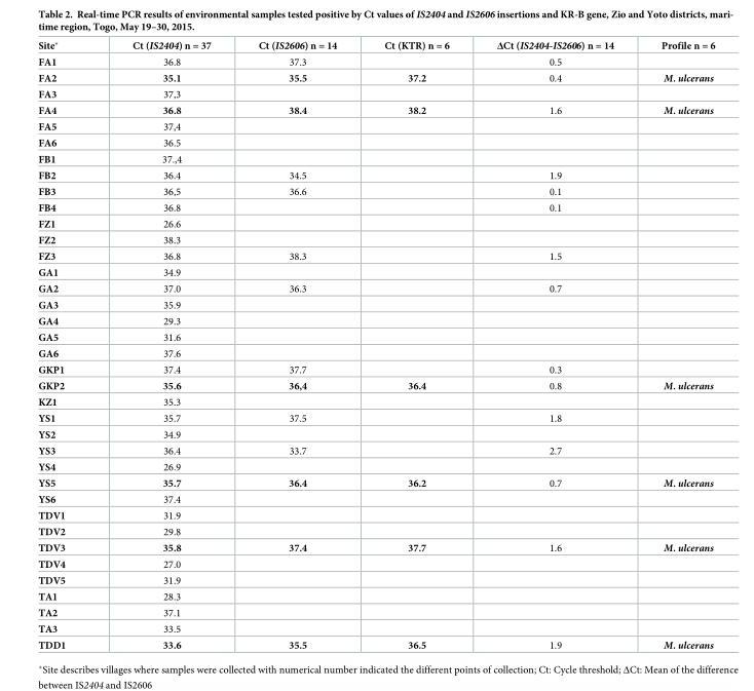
<table><thead><tr><td>Site*</td><td>Ct (IS2404) n = 37</td><td>Ct (IS2606) n = 14</td><td>Ct (KTR) n = 6</td><td>ΔCt (IS2404-IS2606) n = 14</td><td>Profile n = 6</td></tr></thead><tbody><tr><td>FA1</td><td>36.8</td><td>37.3</td><td></td><td>0.5</td><td></td></tr><tr><td>FA2</td><td>35.1</td><td>35.5</td><td>37.2</td><td>0.4</td><td>M. ulcerans</td></tr><tr><td>FA3</td><td>37,3</td><td></td><td></td><td></td><td></td></tr><tr><td>FA4</td><td>36.8</td><td>38.4</td><td>38.2</td><td>1.6</td><td>M. ulcerans</td></tr><tr><td>FA5</td><td>37,4</td><td></td><td></td><td></td><td></td></tr><tr><td>FA6</td><td>36.5</td><td></td><td></td><td></td><td></td></tr><tr><td>FB1</td><td>37.,4</td><td></td><td></td><td></td><td></td></tr><tr><td>FB2</td><td>36.4</td><td>34.5</td><td></td><td>1.9</td><td></td></tr><tr><td>FB3</td><td>36,5</td><td>36.6</td><td></td><td>0.1</td><td></td></tr><tr><td>FB4</td><td>36.8</td><td></td><td></td><td>0.1</td><td></td></tr><tr><td>FZ1</td><td>26.6</td><td></td><td></td><td></td><td></td></tr><tr><td>FZ2</td><td>38.3</td><td></td><td></td><td></td><td></td></tr><tr><td>FZ3</td><td>36.8</td><td>38.3</td><td></td><td>1.5</td><td></td></tr><tr><td>GA1</td><td>34.9</td><td></td><td></td><td></td><td></td></tr><tr><td>GA2</td><td>37.0</td><td>36.3</td><td></td><td>0.7</td><td></td></tr><tr><td>GA3</td><td>35.9</td><td></td><td></td><td></td><td></td></tr><tr><td>GA4</td><td>29.3</td><td></td><td></td><td></td><td></td></tr><tr><td>GA5</td><td>31.6</td><td></td><td></td><td></td><td></td></tr><tr><td>GA6</td><td>37.6</td><td></td><td></td><td></td><td></td></tr><tr><td>GKP1</td><td>37.4</td><td>37.7</td><td></td><td>0.3</td><td></td></tr><tr><td>GKP2</td><td>35.6</td><td>36,4</td><td>36.4</td><td>0.8</td><td>M. ulcerans</td></tr><tr><td>KZ1</td><td>35.3</td><td></td><td></td><td></td><td></td></tr><tr><td>YS1</td><td>35.7</td><td>37.5</td><td></td><td>1.8</td><td></td></tr><tr><td>YS2</td><td>34.9</td><td></td><td></td><td></td><td></td></tr><tr><td>YS3</td><td>36.4</td><td>33.7</td><td></td><td>2.7</td><td></td></tr><tr><td>YS4</td><td>26.9</td><td></td><td></td><td></td><td></td></tr><tr><td>YS5</td><td>35.7</td><td>36.4</td><td>36.2</td><td>0.7</td><td>M. ulcerans</td></tr><tr><td>YS6</td><td>37.4</td><td></td><td></td><td></td><td></td></tr><tr><td>TDV1</td><td>31.9</td><td></td><td></td><td></td><td></td></tr><tr><td>TDV2</td><td>29.8</td><td></td><td></td><td></td><td></td></tr><tr><td>TDV3</td><td>35.8</td><td>37.4</td><td>37.7</td><td>1.6</td><td>M. ulcerans</td></tr><tr><td>TDV4</td><td>27.0</td><td></td><td></td><td></td><td></td></tr><tr><td>TDV5</td><td>31.9</td><td></td><td></td><td></td><td></td></tr><tr><td>TA1</td><td>28.3</td><td></td><td></td><td></td><td></td></tr><tr><td>TA2</td><td>37.1</td><td></td><td></td><td></td><td></td></tr><tr><td>TA3</td><td>33.5</td><td></td><td></td><td></td><td></td></tr><tr><td>TDD1</td><td>33.6</td><td>35.5</td><td>36.5</td><td>1.9</td><td>M. ulcerans</td></tr></tbody></table>